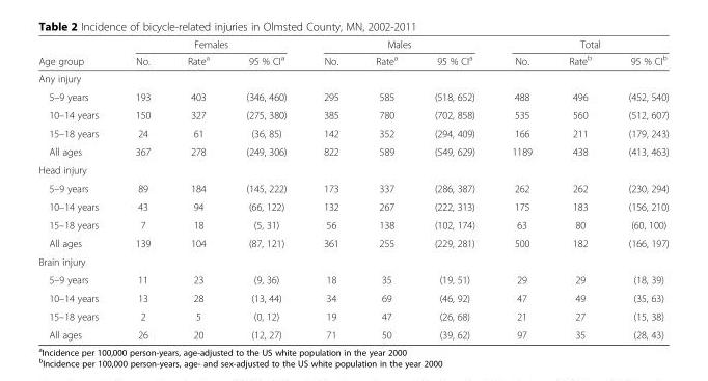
<table><thead><tr><td rowspan="2">Age group</td><td colspan="3">Females</td><td colspan="3">Males</td><td colspan="3">Total</td></tr><tr><td>No.</td><td>Rate<sup>a</sup></td><td>95 % CI<sup>a</sup></td><td>No.</td><td>Rate<sup>a</sup></td><td>95 % CI<sup>a</sup></td><td>No.</td><td>Rate<sup>b</sup></td><td>95 % CI<sup>b</sup></td></tr></thead><tbody><tr><td colspan="10">Any injury</td></tr><tr><td>5–9 years</td><td>193</td><td>403</td><td>(346, 460)</td><td>295</td><td>585</td><td>(518, 652)</td><td>488</td><td>496</td><td>(452, 540)</td></tr><tr><td>10–14 years</td><td>150</td><td>327</td><td>(275, 380)</td><td>385</td><td>780</td><td>(702, 858)</td><td>535</td><td>560</td><td>(512, 607)</td></tr><tr><td>15–18 years</td><td>24</td><td>61</td><td>(36, 85)</td><td>142</td><td>352</td><td>(294, 409)</td><td>166</td><td>211</td><td>(179, 243)</td></tr><tr><td>All ages</td><td>367</td><td>278</td><td>(249, 306)</td><td>822</td><td>589</td><td>(549, 629)</td><td>1189</td><td>438</td><td>(413, 463)</td></tr><tr><td colspan="10">Head injury</td></tr><tr><td>5–9 years</td><td>89</td><td>184</td><td>(145, 222)</td><td>173</td><td>337</td><td>(286, 387)</td><td>262</td><td>262</td><td>(230, 294)</td></tr><tr><td>10–14 years</td><td>43</td><td>94</td><td>(66, 122)</td><td>132</td><td>267</td><td>(222, 313)</td><td>175</td><td>183</td><td>(156, 210)</td></tr><tr><td>15–18 years</td><td>7</td><td>18</td><td>(5, 31)</td><td>56</td><td>138</td><td>(102, 174)</td><td>63</td><td>80</td><td>(60, 100)</td></tr><tr><td>All ages</td><td>139</td><td>104</td><td>(87, 121)</td><td>361</td><td>255</td><td>(229, 281)</td><td>500</td><td>182</td><td>(166, 197)</td></tr><tr><td colspan="10">Brain injury</td></tr><tr><td>5–9 years</td><td>11</td><td>23</td><td>(9, 36)</td><td>18</td><td>35</td><td>(19, 51)</td><td>29</td><td>29</td><td>(18, 39)</td></tr><tr><td>10–14 years</td><td>13</td><td>28</td><td>(13, 44)</td><td>34</td><td>69</td><td>(46, 92)</td><td>47</td><td>49</td><td>(35, 63)</td></tr><tr><td>15–18 years</td><td>2</td><td>5</td><td>(0, 12)</td><td>19</td><td>47</td><td>(26, 68)</td><td>21</td><td>27</td><td>(15, 38)</td></tr><tr><td>All ages</td><td>26</td><td>20</td><td>(12, 27)</td><td>71</td><td>50</td><td>(39, 62)</td><td>97</td><td>35</td><td>(28, 43)</td></tr></tbody></table>